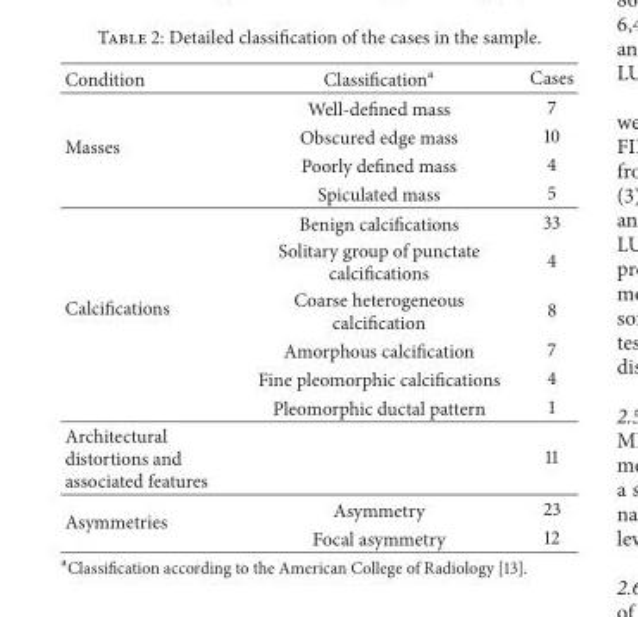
<table><thead><tr><td>Condition</td><td>Classification<sup>a</sup></td><td>Cases</td></tr></thead><tbody><tr><td rowspan="4">Masses</td><td>Well-defined mass</td><td>7</td></tr><tr><td>Obscured edge mass</td><td>10</td></tr><tr><td>Poorly defined mass</td><td>4</td></tr><tr><td>Spiculated mass</td><td>5</td></tr><tr><td rowspan="6">Calcifications</td><td>Benign calcifications</td><td>33</td></tr><tr><td>Solitary group of punctate calcifications</td><td>4</td></tr><tr><td>Coarse heterogeneous calcification</td><td>8</td></tr><tr><td>Amorphous calcification</td><td>7</td></tr><tr><td>Fine pleomorphic calcifications</td><td>4</td></tr><tr><td>Pleomorphic ductal pattern</td><td>1</td></tr><tr><td>Architectural distortions and associated features</td><td></td><td>11</td></tr><tr><td rowspan="2">Asymmetries</td><td>Asymmetry</td><td>23</td></tr><tr><td>Focal asymmetry</td><td>12</td></tr></tbody></table>